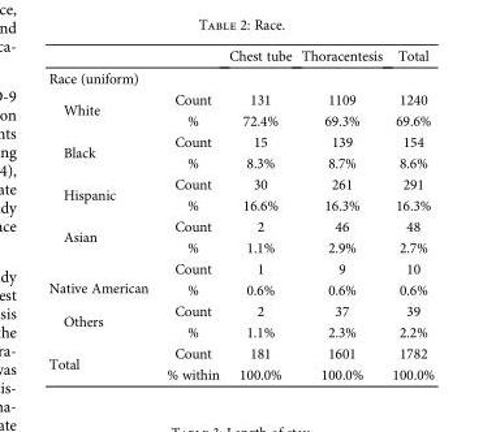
<table><thead><tr><td></td><td></td><td>Chest tube</td><td>Thoracentesis</td><td>Total</td></tr></thead><tbody><tr><td colspan="5">Race (uniform)</td></tr><tr><td rowspan="2">White</td><td>Count</td><td>131</td><td>1109</td><td>1240</td></tr><tr><td>%</td><td>72.4%</td><td>69.3%</td><td>69.6%</td></tr><tr><td rowspan="2">Black</td><td>Count</td><td>15</td><td>139</td><td>154</td></tr><tr><td>%</td><td>8.3%</td><td>8.7%</td><td>8.6%</td></tr><tr><td rowspan="2">Hispanic</td><td>Count</td><td>30</td><td>261</td><td>291</td></tr><tr><td>%</td><td>16.6%</td><td>16.3%</td><td>16.3%</td></tr><tr><td rowspan="2">Asian</td><td>Count</td><td>2</td><td>46</td><td>48</td></tr><tr><td>%</td><td>1.1%</td><td>2.9%</td><td>2.7%</td></tr><tr><td rowspan="2">Native American</td><td>Count</td><td>1</td><td>9</td><td>10</td></tr><tr><td>%</td><td>0.6%</td><td>0.6%</td><td>0.6%</td></tr><tr><td rowspan="2">Others</td><td>Count</td><td>2</td><td>37</td><td>39</td></tr><tr><td>%</td><td>1.1%</td><td>2.3%</td><td>2.2%</td></tr><tr><td rowspan="2">Total</td><td>Count</td><td>181</td><td>1601</td><td>1782</td></tr><tr><td>% within</td><td>100.0%</td><td>100.0%</td><td>100.0%</td></tr></tbody></table>